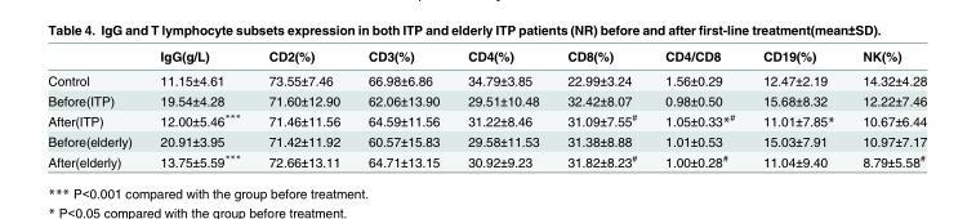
<table><thead><tr><td></td><td>IgG(g/L)</td><td>CD2(%)</td><td>CD3(%)</td><td>CD4(%)</td><td>CD8(%)</td><td>CD4/CD8</td><td>CD19(%)</td><td>NK(%)</td></tr></thead><tbody><tr><td>Control</td><td>11.15±4.61</td><td>73.55±7.46</td><td>66.98±6.86</td><td>34.79±3.85</td><td>22.99±3.24</td><td>1.56±0.29</td><td>12.47±2.19</td><td>14.32±4.28</td></tr><tr><td>Before(ITP)</td><td>19.54±4.28</td><td>71.60±12.90</td><td>62.06±13.90</td><td>29.51±10.48</td><td>32.42±8.07</td><td>0.98±0.50</td><td>15.68±8.32</td><td>12.22±7.46</td></tr><tr><td>After(ITP)</td><td>12.00±5.46***</td><td>71.46±11.56</td><td>64.59±11.56</td><td>31.22±8.46</td><td>31.09±7.55<sup>#</sup></td><td>1.05±0.33*<sup>#</sup></td><td>11.01±7.85*</td><td>10.67±6.44</td></tr><tr><td>Before(elderly)</td><td>20.91±3.95</td><td>71.42±11.92</td><td>60.57±15.83</td><td>29.58±11.53</td><td>31.38±8.88</td><td>1.01±0.53</td><td>15.03±7.91</td><td>10.97±7.17</td></tr><tr><td>After(elderly)</td><td>13.75±5.59***</td><td>72.66±13.11</td><td>64.71±13.15</td><td>30.92±9.23</td><td>31.82±8.23<sup>#</sup></td><td>1.00±0.28<sup>#</sup></td><td>11.04±9.40</td><td>8.79±5.58<sup>#</sup></td></tr></tbody></table>